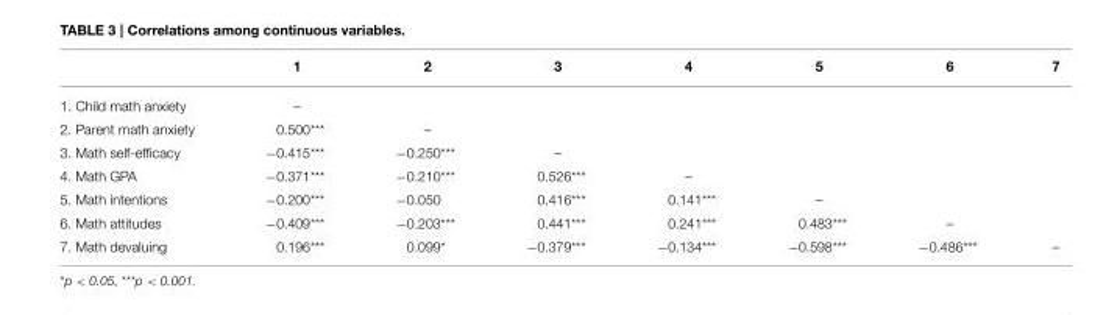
<table><thead><tr><td></td><td>1</td><td>2</td><td>3</td><td>4</td><td>5</td><td>6</td><td>7</td></tr></thead><tbody><tr><td>1. Child math anxiety</td><td>–</td><td></td><td></td><td></td><td></td><td></td><td></td></tr><tr><td>2. Parent math anxiety</td><td>0.500***</td><td>–</td><td></td><td></td><td></td><td></td><td></td></tr><tr><td>3. Math self-efficacy</td><td>−0.415***</td><td>−0.250***</td><td>–</td><td></td><td></td><td></td><td></td></tr><tr><td>4. Math GPA</td><td>−0.371***</td><td>−0.210***</td><td>0.526***</td><td>–</td><td></td><td></td><td></td></tr><tr><td>5. Math intentions</td><td>−0.200***</td><td>−0.050</td><td>0.416***</td><td>0.141***</td><td>–</td><td></td><td></td></tr><tr><td>6. Math attitudes</td><td>−0.409***</td><td>−0.203***</td><td>0.441***</td><td>0.241***</td><td>0.483***</td><td>–</td><td></td></tr><tr><td>7. Math devaluing</td><td>0.196***</td><td>0.099*</td><td>−0.379***</td><td>−0.134***</td><td>−0.598***</td><td>−0.486***</td><td>–</td></tr></tbody></table>